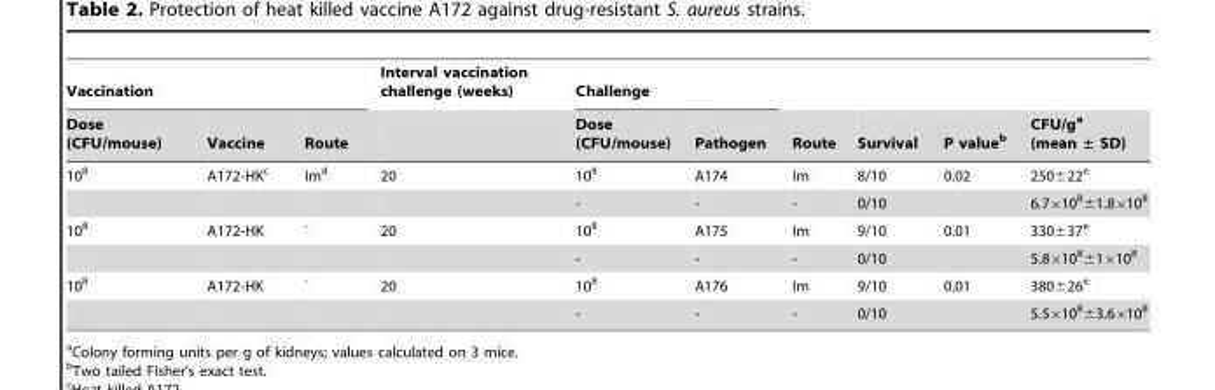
<table><thead><tr><td colspan="3">Vaccination</td><td rowspan="2">Interval vaccination challenge (weeks)</td><td colspan="2">Challenge</td><td rowspan="2">Route</td><td rowspan="2">Survival</td><td rowspan="2">P value<sup>b</sup></td><td rowspan="2">CFU/g<sup>a</sup> (mean ± SD)</td></tr><tr><td>Dose (CFU/mouse)</td><td>Vaccine</td><td>Route</td><td>Dose (CFU/mouse)</td><td>Pathogen</td></tr></thead><tbody><tr><td rowspan="2">10<sup>8</sup></td><td>A172-HK<sup>c</sup></td><td>Im<sup>d</sup></td><td>20</td><td>10<sup>8</sup></td><td>A174</td><td>Im</td><td>8/10</td><td>0.02</td><td>250±22<sup>e</sup></td></tr><tr><td></td><td></td><td></td><td>-</td><td>-</td><td>-</td><td>0/10</td><td></td><td>6.7×10<sup>8</sup>±1.8×10<sup>8</sup></td></tr><tr><td rowspan="2">10<sup>8</sup></td><td>A172-HK</td><td><sup>-</sup></td><td>20</td><td>10<sup>8</sup></td><td>A175</td><td>Im</td><td>9/10</td><td>0.01</td><td>330±37<sup>e</sup></td></tr><tr><td></td><td></td><td></td><td>-</td><td>-</td><td>-</td><td>0/10</td><td></td><td>5.8×10<sup>8</sup>±1×10<sup>8</sup></td></tr><tr><td rowspan="2">10<sup>8</sup></td><td>A172-HK</td><td><sup>-</sup></td><td>20</td><td>10<sup>8</sup></td><td>A176</td><td>Im</td><td>9/10</td><td>0.01</td><td>380±26<sup>e</sup></td></tr><tr><td></td><td></td><td></td><td>-</td><td>-</td><td>-</td><td>0/10</td><td></td><td>5.5×10<sup>8</sup>±3.6×10<sup>8</sup></td></tr></tbody></table>